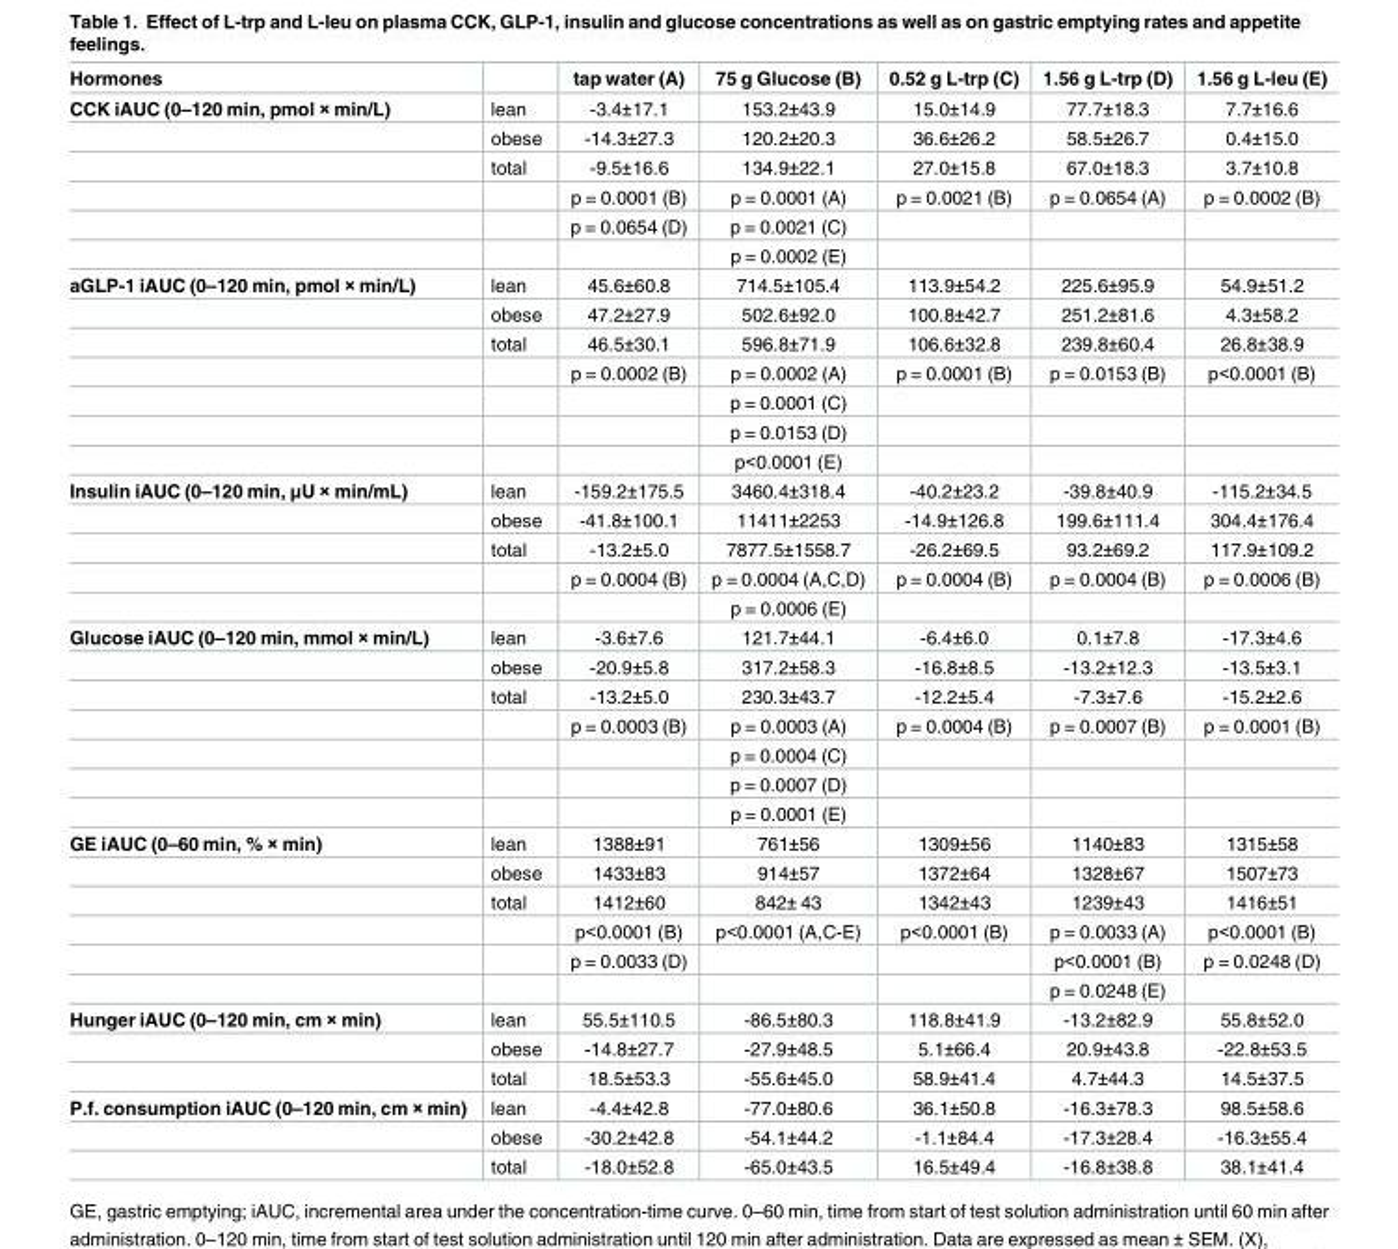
<table><thead><tr><td>Hormones</td><td></td><td>tap water (A)</td><td>75 g Glucose (B)</td><td>0.52 g L-trp (C)</td><td>1.56 g L-trp (D)</td><td>1.56 g L-leu (E)</td></tr></thead><tbody><tr><td rowspan="6">CCK iAUC (0–120 min, pmol × min/L)</td><td>lean</td><td>-3.4±17.1</td><td>153.2±43.9</td><td>15.0±14.9</td><td>77.7±18.3</td><td>7.7±16.6</td></tr><tr><td>obese</td><td>-14.3±27.3</td><td>120.2±20.3</td><td>36.6±26.2</td><td>58.5±26.7</td><td>0.4±15.0</td></tr><tr><td>total</td><td>-9.5±16.6</td><td>134.9±22.1</td><td>27.0±15.8</td><td>67.0±18.3</td><td>3.7±10.8</td></tr><tr><td></td><td>p = 0.0001 (B)</td><td>p = 0.0001 (A)</td><td>p = 0.0021 (B)</td><td>p = 0.0654 (A)</td><td>p = 0.0002 (B)</td></tr><tr><td></td><td>p = 0.0654 (D)</td><td>p = 0.0021 (C)</td><td></td><td></td><td></td></tr><tr><td></td><td></td><td>p = 0.0002 (E)</td><td></td><td></td><td></td></tr><tr><td rowspan="7">aGLP-1 iAUC (0–120 min, pmol × min/L)</td><td>lean</td><td>45.6±60.8</td><td>714.5±105.4</td><td>113.9±54.2</td><td>225.6±95.9</td><td>54.9±51.2</td></tr><tr><td>obese</td><td>47.2±27.9</td><td>502.6±92.0</td><td>100.8±42.7</td><td>251.2±81.6</td><td>4.3±58.2</td></tr><tr><td>total</td><td>46.5±30.1</td><td>596.8±71.9</td><td>106.6±32.8</td><td>239.8±60.4</td><td>26.8±38.9</td></tr><tr><td></td><td>p = 0.0002 (B)</td><td>p = 0.0002 (A)</td><td>p = 0.0001 (B)</td><td>p = 0.0153 (B)</td><td>p&lt;0.0001 (B)</td></tr><tr><td></td><td></td><td>p = 0.0001 (C)</td><td></td><td></td><td></td></tr><tr><td></td><td></td><td>p = 0.0153 (D)</td><td></td><td></td><td></td></tr><tr><td></td><td></td><td>p&lt;0.0001 (E)</td><td></td><td></td><td></td></tr><tr><td rowspan="5">Insulin iAUC (0–120 min, μU × min/mL)</td><td>lean</td><td>-159.2±175.5</td><td>3460.4±318.4</td><td>-40.2±23.2</td><td>-39.8±40.9</td><td>-115.2±34.5</td></tr><tr><td>obese</td><td>-41.8±100.1</td><td>11411±2253</td><td>-14.9±126.8</td><td>199.6±111.4</td><td>304.4±176.4</td></tr><tr><td>total</td><td>-13.2±5.0</td><td>7877.5±1558.7</td><td>-26.2±69.5</td><td>93.2±69.2</td><td>117.9±109.2</td></tr><tr><td></td><td>p = 0.0004 (B)</td><td>p = 0.0004 (A,C,D)</td><td>p = 0.0004 (B)</td><td>p = 0.0004 (B)</td><td>p = 0.0006 (B)</td></tr><tr><td></td><td></td><td>p = 0.0006 (E)</td><td></td><td></td><td></td></tr><tr><td rowspan="7">Glucose iAUC (0–120 min, mmol × min/L)</td><td>lean</td><td>-3.6±7.6</td><td>121.7±44.1</td><td>-6.4±6.0</td><td>0.1±7.8</td><td>-17.3±4.6</td></tr><tr><td>obese</td><td>-20.9±5.8</td><td>317.2±58.3</td><td>-16.8±8.5</td><td>-13.2±12.3</td><td>-13.5±3.1</td></tr><tr><td>total</td><td>-13.2±5.0</td><td>230.3±43.7</td><td>-12.2±5.4</td><td>-7.3±7.6</td><td>-15.2±2.6</td></tr><tr><td></td><td>p = 0.0003 (B)</td><td>p = 0.0003 (A)</td><td>p = 0.0004 (B)</td><td>p = 0.0007 (B)</td><td>p = 0.0001 (B)</td></tr><tr><td></td><td></td><td>p = 0.0004 (C)</td><td></td><td></td><td></td></tr><tr><td></td><td></td><td>p = 0.0007 (D)</td><td></td><td></td><td></td></tr><tr><td></td><td></td><td>p = 0.0001 (E)</td><td></td><td></td><td></td></tr><tr><td rowspan="6">GE iAUC (0–60 min, % × min)</td><td>lean</td><td>1388±91</td><td>761±56</td><td>1309±56</td><td>1140±83</td><td>1315±58</td></tr><tr><td>obese</td><td>1433±83</td><td>914±57</td><td>1372±64</td><td>1328±67</td><td>1507±73</td></tr><tr><td>total</td><td>1412±60</td><td>842± 43</td><td>1342±43</td><td>1239±43</td><td>1416±51</td></tr><tr><td></td><td>p&lt;0.0001 (B)</td><td>p&lt;0.0001 (A,C-E)</td><td>p&lt;0.0001 (B)</td><td>p = 0.0033 (A)</td><td>p&lt;0.0001 (B)</td></tr><tr><td></td><td>p = 0.0033 (D)</td><td></td><td></td><td>p&lt;0.0001 (B)</td><td>p = 0.0248 (D)</td></tr><tr><td></td><td></td><td></td><td></td><td>p = 0.0248 (E)</td><td></td></tr><tr><td rowspan="3">Hunger iAUC (0–120 min, cm × min)</td><td>lean</td><td>55.5±110.5</td><td>-86.5±80.3</td><td>118.8±41.9</td><td>-13.2±82.9</td><td>55.8±52.0</td></tr><tr><td>obese</td><td>-14.8±27.7</td><td>-27.9±48.5</td><td>5.1±66.4</td><td>20.9±43.8</td><td>-22.8±53.5</td></tr><tr><td>total</td><td>18.5±53.3</td><td>-55.6±45.0</td><td>58.9±41.4</td><td>4.7±44.3</td><td>14.5±37.5</td></tr><tr><td rowspan="3">P.f. consumption iAUC (0–120 min, cm × min)</td><td>lean</td><td>-4.4±42.8</td><td>-77.0±80.6</td><td>36.1±50.8</td><td>-16.3±78.3</td><td>98.5±58.6</td></tr><tr><td>obese</td><td>-30.2±42.8</td><td>-54.1±44.2</td><td>-1.1±84.4</td><td>-17.3±28.4</td><td>-16.3±55.4</td></tr><tr><td>total</td><td>-18.0±52.8</td><td>-65.0±43.5</td><td>16.5±49.4</td><td>-16.8±38.8</td><td>38.1±41.4</td></tr></tbody></table>